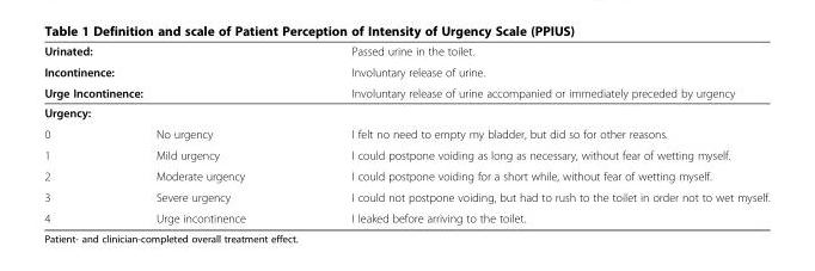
<table><tbody><tr><td colspan="2">Urinated:</td><td>Passed urine in the toilet.</td></tr><tr><td colspan="2">Incontinence:</td><td>Involuntary release of urine.</td></tr><tr><td colspan="2">Urge Incontinence:</td><td>Involuntary release of urine accompanied or immediately preceded by urgency</td></tr><tr><td colspan="3">Urgency:</td></tr><tr><td>0</td><td>No urgency</td><td>I felt no need to empty my bladder, but did so for other reasons.</td></tr><tr><td>1</td><td>Mild urgency</td><td>I could postpone voiding as long as necessary, without fear of wetting myself.</td></tr><tr><td>2</td><td>Moderate urgency</td><td>I could postpone voiding for a short while, without fear of wetting myself.</td></tr><tr><td>3</td><td>Severe urgency</td><td>I could not postpone voiding, but had to rush to the toilet in order not to wet myself.</td></tr><tr><td>4</td><td>Urge incontinence</td><td>I leaked before arriving to the toilet.</td></tr></tbody></table>